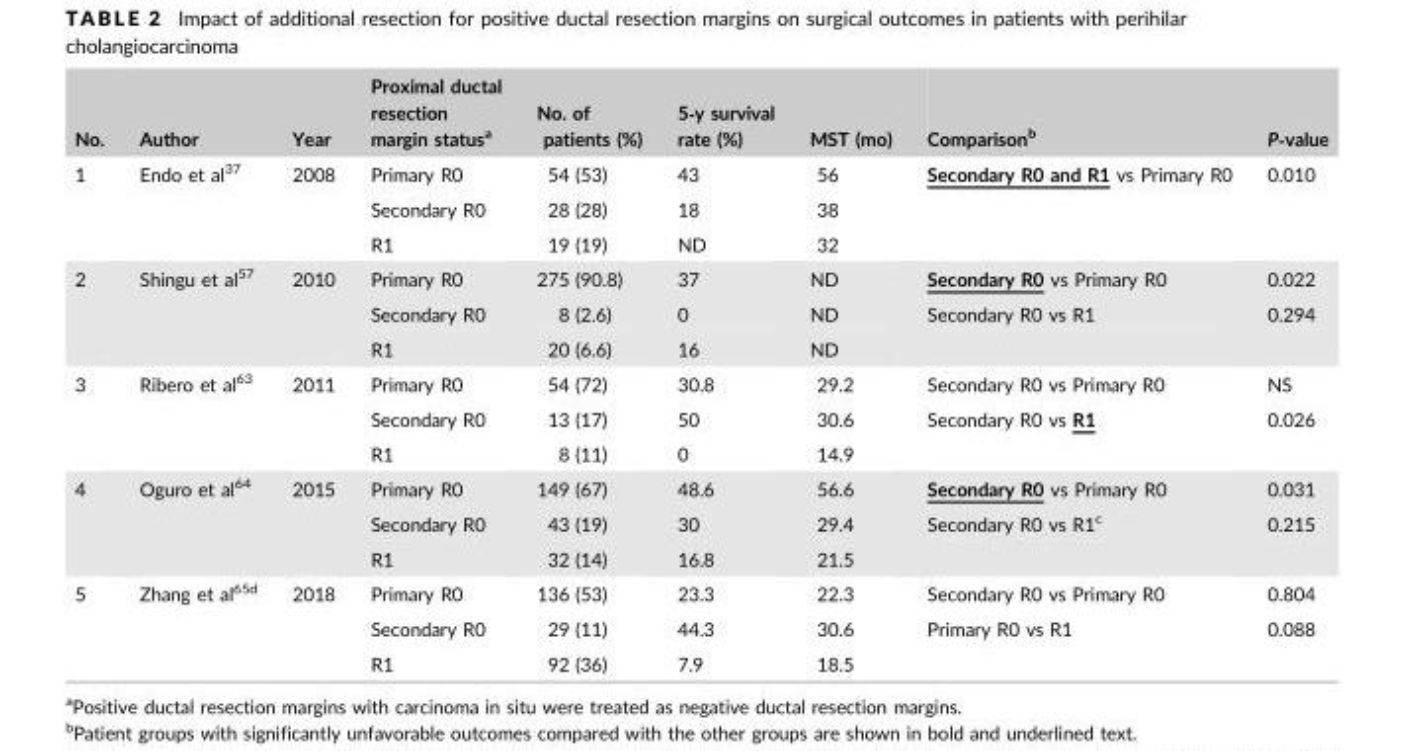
<table><thead><tr><td>No.</td><td>Author</td><td>Year</td><td>Proximal ductal resection margin status<sup>a</sup></td><td>No. of patients (%)</td><td>5‐y survival rate (%)</td><td>MST (mo)</td><td>Comparison<sup>b</sup></td><td>P‐value</td></tr></thead><tbody><tr><td rowspan="3">1</td><td rowspan="3">Endo et al<sup>37</sup></td><td rowspan="3">2008</td><td>Primary R0</td><td>54 (53)</td><td>43</td><td>56</td><td>Secondary R0 and R1 vs Primary R0</td><td>0.010</td></tr><tr><td>Secondary R0</td><td>28 (28)</td><td>18</td><td>38</td><td></td><td></td></tr><tr><td>R1</td><td>19 (19)</td><td>ND</td><td>32</td><td></td><td></td></tr><tr><td rowspan="3">2</td><td rowspan="3">Shingu et al<sup>57</sup></td><td rowspan="3">2010</td><td>Primary R0</td><td>275 (90.8)</td><td>37</td><td>ND</td><td>Secondary R0 vs Primary R0</td><td>0.022</td></tr><tr><td>Secondary R0</td><td>8 (2.6)</td><td>0</td><td>ND</td><td>Secondary R0 vs R1</td><td>0.294</td></tr><tr><td>R1</td><td>20 (6.6)</td><td>16</td><td>ND</td><td></td><td></td></tr><tr><td rowspan="3">3</td><td rowspan="3">Ribero et al<sup>63</sup></td><td rowspan="3">2011</td><td>Primary R0</td><td>54 (72)</td><td>30.8</td><td>29.2</td><td>Secondary R0 vs Primary R0</td><td>NS</td></tr><tr><td>Secondary R0</td><td>13 (17)</td><td>50</td><td>30.6</td><td>Secondary R0 vs R1</td><td>0.026</td></tr><tr><td>R1</td><td>8 (11)</td><td>0</td><td>14.9</td><td></td><td></td></tr><tr><td rowspan="3">4</td><td rowspan="3">Oguro et al<sup>64</sup></td><td rowspan="3">2015</td><td>Primary R0</td><td>149 (67)</td><td>48.6</td><td>56.6</td><td>Secondary R0 vs Primary R0</td><td>0.031</td></tr><tr><td>Secondary R0</td><td>43 (19)</td><td>30</td><td>29.4</td><td>Secondary R0 vs R1<sup>c</sup></td><td>0.215</td></tr><tr><td>R1</td><td>32 (14)</td><td>16.8</td><td>21.5</td><td></td><td></td></tr><tr><td rowspan="3">5</td><td rowspan="3">Zhang et al65d</td><td rowspan="3">2018</td><td>Primary R0</td><td>136 (53)</td><td>23.3</td><td>22.3</td><td>Secondary R0 vs Primary R0</td><td>0.804</td></tr><tr><td>Secondary R0</td><td>29 (11)</td><td>44.3</td><td>30.6</td><td>Primary R0 vs R1</td><td>0.088</td></tr><tr><td>R1</td><td>92 (36)</td><td>7.9</td><td>18.5</td><td></td><td></td></tr></tbody></table>